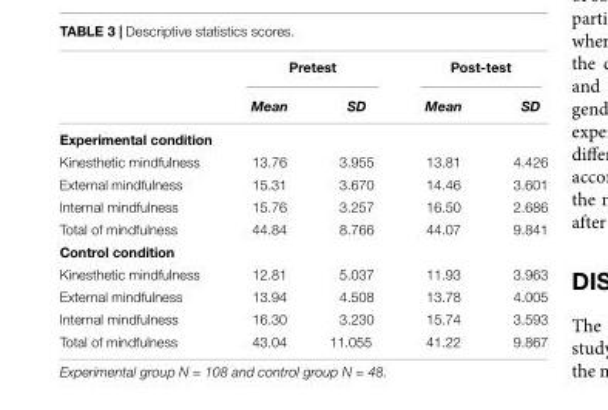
<table><thead><tr><td rowspan="2"></td><td colspan="2">Pretest</td><td colspan="2">Post-test</td></tr><tr><td>Mean</td><td>SD</td><td>Mean</td><td>SD</td></tr></thead><tbody><tr><td colspan="5">Experimental condition</td></tr><tr><td>Kinesthetic mindfulness</td><td>13.76</td><td>3.955</td><td>13.81</td><td>4.426</td></tr><tr><td>External mindfulness</td><td>15.31</td><td>3.670</td><td>14.46</td><td>3.601</td></tr><tr><td>Internal mindfulness</td><td>15.76</td><td>3.257</td><td>16.50</td><td>2.686</td></tr><tr><td>Total of mindfulness</td><td>44.84</td><td>8.766</td><td>44.07</td><td>9.841</td></tr><tr><td colspan="5">Control condition</td></tr><tr><td>Kinesthetic mindfulness</td><td>12.81</td><td>5.037</td><td>11.93</td><td>3.963</td></tr><tr><td>External mindfulness</td><td>13.94</td><td>4.508</td><td>13.78</td><td>4.005</td></tr><tr><td>Internal mindfulness</td><td>16.30</td><td>3.230</td><td>15.74</td><td>3.593</td></tr><tr><td>Total of mindfulness</td><td>43.04</td><td>11.055</td><td>41.22</td><td>9.867</td></tr></tbody></table>